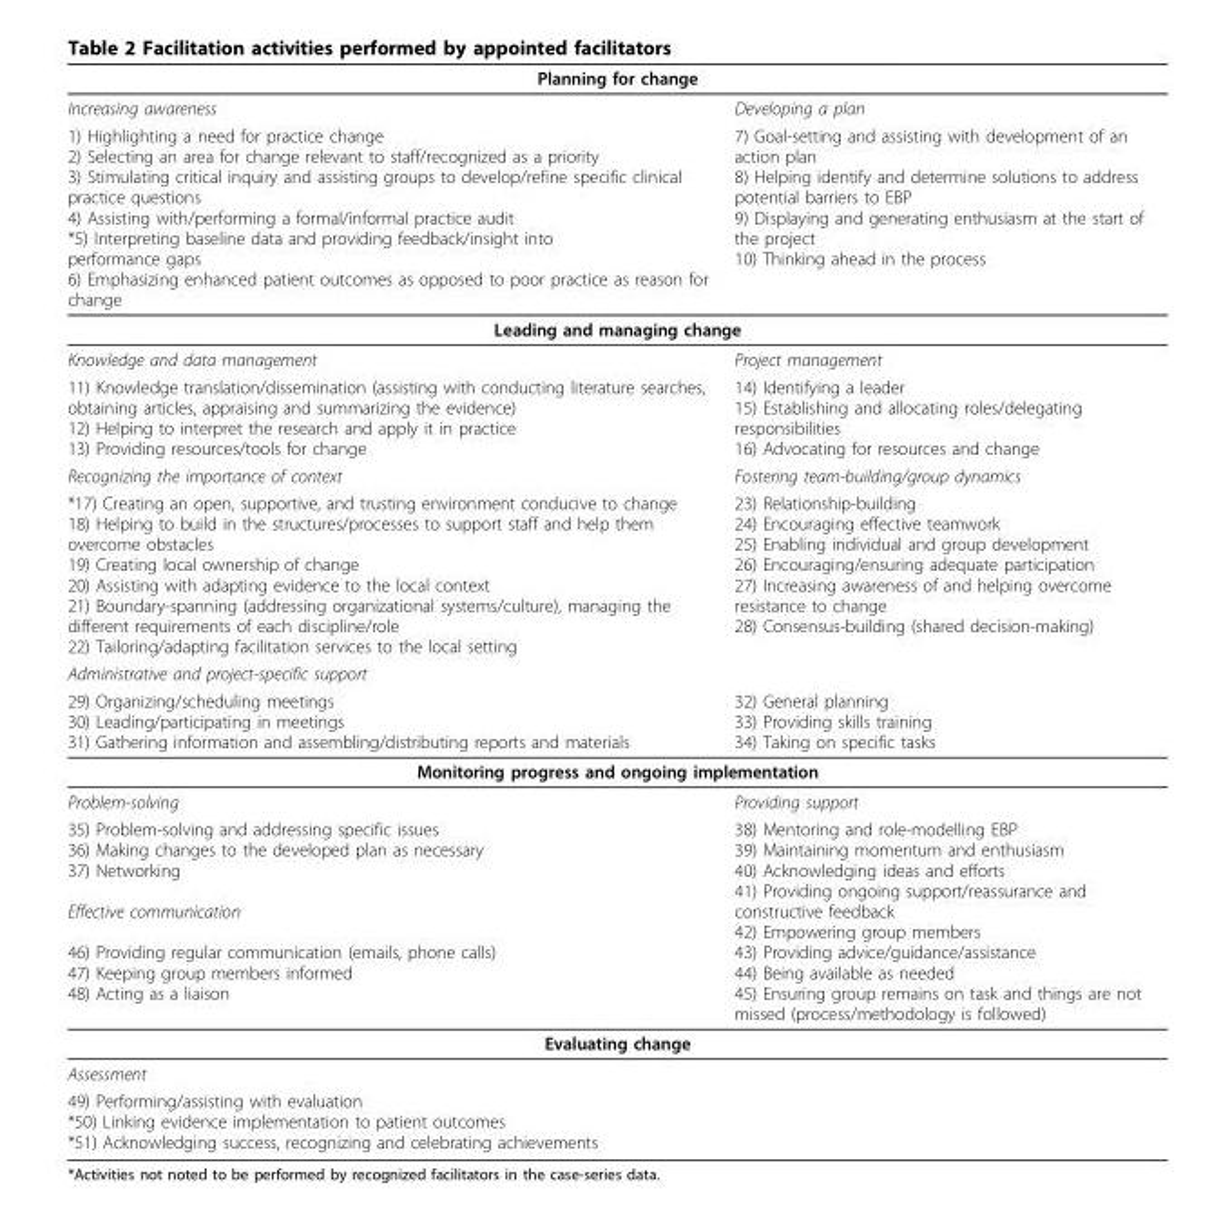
<table><thead><tr><td colspan="2">Planning for change</td></tr><tr><td>Increasing awareness</td><td>Developing a plan</td></tr></thead><tbody><tr><td>1) Highlighting a need for practice change 2) Selecting an area for change relevant to staff/recognized as a priority 3) Stimulating critical inquiry and assisting groups to develop/refine specific clinical practice questions 4) Assisting with/performing a formal/informal practice audit *5) Interpreting baseline data and providing feedback/insight into performance gaps 6) Emphasizing enhanced patient outcomes as opposed to poor practice as reason for change</td><td>7) Goal-setting and assisting with development of an action plan 8) Helping identify and determine solutions to address potential barriers to EBP 9) Displaying and generating enthusiasm at the start of the project 10) Thinking ahead in the process</td></tr><tr><td colspan="2">Leading and managing change</td></tr><tr><td>Knowledge and data management</td><td>Project management</td></tr><tr><td>11) Knowledge translation/dissemination (assisting with conducting literature searches, obtaining articles, appraising and summarizing the evidence) 12) Helping to interpret the research and apply it in practice 13) Providing resources/tools for change</td><td>14) Identifying a leader 15) Establishing and allocating roles/delegating responsibilities 16) Advocating for resources and change</td></tr><tr><td>Recognizing the importance of context</td><td>Fostering team-building/group dynamics</td></tr><tr><td>*17) Creating an open, supportive, and trusting environment conducive to change 18) Helping to build in the structures/processes to support staff and help them overcome obstacles 19) Creating local ownership of change 20) Assisting with adapting evidence to the local context 21) Boundary-spanning (addressing organizational systems/culture), managing the different requirements of each discipline/role 22) Tailoring/adapting facilitation services to the local setting</td><td>23) Relationship-building 24) Encouraging effective teamwork 25) Enabling individual and group development 26) Encouraging/ensuring adequate participation 27) Increasing awareness of and helping overcome resistance to change 28) Consensus-building (shared decision-making)</td></tr><tr><td colspan="2">Administrative and project-specific support</td></tr><tr><td>29) Organizing/scheduling meetings 30) Leading/participating in meetings 31) Gathering information and assembling/distributing reports and materials</td><td>32) General planning 33) Providing skills training 34) Taking on specific tasks</td></tr><tr><td colspan="2">Monitoring progress and ongoing implementation</td></tr><tr><td>Problem-solving</td><td>Providing support</td></tr><tr><td>35) Problem-solving and addressing specific issues 36) Making changes to the developed plan as necessary 37) Networking Effective communication 46) Providing regular communication (emails, phone calls) 47) Keeping group members informed 48) Acting as a liaison</td><td>38) Mentoring and role-modelling EBP 39) Maintaining momentum and enthusiasm 40) Acknowledging ideas and efforts 41) Providing ongoing support/reassurance and constructive feedback 42) Empowering group members 43) Providing advice/guidance/assistance 44) Being available as needed 45) Ensuring group remains on task and things are not missed (process/methodology is followed)</td></tr><tr><td colspan="2">Evaluating change</td></tr><tr><td colspan="2">Assessment</td></tr><tr><td colspan="2">49) Performing/assisting with evaluation *50) Linking evidence implementation to patient outcomes *51) Acknowledging success, recognizing and celebrating achievements</td></tr></tbody></table>